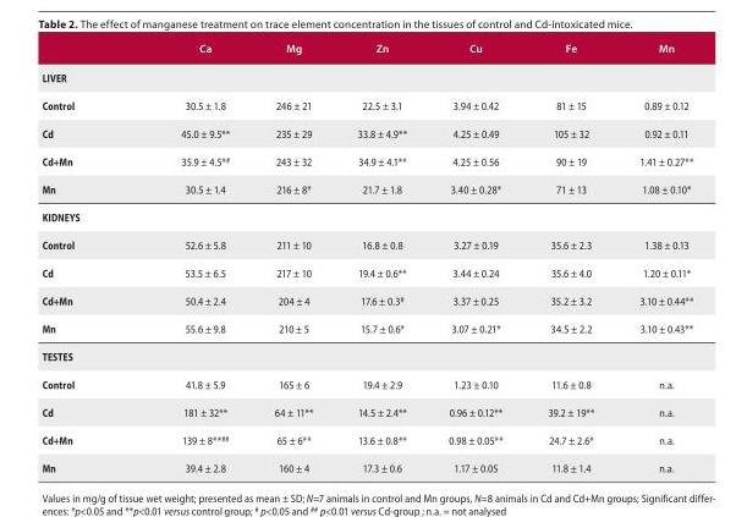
<table><thead><tr><td></td><td>Ca</td><td>Mg</td><td>Zn</td><td>Cu</td><td>Fe</td><td>Mn</td></tr></thead><tbody><tr><td colspan="7">LIVER</td></tr><tr><td>Control</td><td>30.5 ± 1.8</td><td>246 ± 21</td><td>22.5 ± 3.1</td><td>3.94 ± 0.42</td><td>81 ± 15</td><td>0.89 ± 0.12</td></tr><tr><td>Cd</td><td>45.0 ± 9.5**</td><td>235 ± 29</td><td>33.8 ± 4.9**</td><td>4.25 ± 0.49</td><td>105 ± 32</td><td>0.92 ± 0.11</td></tr><tr><td>Cd+Mn</td><td>35.9 ± 4.5<sup>*#</sup></td><td>243 ± 32</td><td>34.9 ± 4.1**</td><td>4.25 ± 0.56</td><td>90 ± 19</td><td>1.41 ± 0.27**</td></tr><tr><td>Mn</td><td>30.5 ± 1.4</td><td>216 ± 8*</td><td>21.7 ± 1.8</td><td>3.40 ± 0.28*</td><td>71 ± 13</td><td>1.08 ± 0.10*</td></tr><tr><td colspan="7">KIDNEYS</td></tr><tr><td>Control</td><td>52.6 ± 5.8</td><td>211 ± 10</td><td>16.8 ± 0.8</td><td>3.27 ± 0.19</td><td>35.6 ± 2.3</td><td>1.38 ± 0.13</td></tr><tr><td>Cd</td><td>53.5 ± 6.5</td><td>217 ± 10</td><td>19.4 ± 0.6**</td><td>3.44 ± 0.24</td><td>35.6 ± 4.0</td><td>1.20 ± 0.11*</td></tr><tr><td>Cd+Mn</td><td>50.4 ± 2.4</td><td>204 ± 4</td><td>17.6 ± 0.3<sup>#</sup></td><td>3.37 ± 0.25</td><td>35.2 ± 3.2</td><td>3.10 ± 0.44**</td></tr><tr><td>Mn</td><td>55.6 ± 9.8</td><td>210 ± 5</td><td>15.7 ± 0.6*</td><td>3.07 ± 0.21*</td><td>34.5 ± 2.2</td><td>3.10 ± 0.43**</td></tr><tr><td colspan="7">TESTES</td></tr><tr><td>Control</td><td>41.8 ± 5.9</td><td>165 ± 6</td><td>19.4 ± 2.9</td><td>1.23 ± 0.10</td><td>11.6 ± 0.8</td><td>n.a.</td></tr><tr><td>Cd</td><td>181 ± 32**</td><td>64 ± 11**</td><td>14.5 ± 2.4**</td><td>0.96 ± 0.12**</td><td>39.2 ± 19**</td><td>n.a.</td></tr><tr><td>Cd+Mn</td><td>139 ± 8<sup>**##</sup></td><td>65 ± 6**</td><td>13.6 ± 0.8**</td><td>0.98 ± 0.05**</td><td>24.7 ± 2.6*</td><td>n.a.</td></tr><tr><td>Mn</td><td>39.4 ± 2.8</td><td>160 ± 4</td><td>17.3 ± 0.6</td><td>1.17 ± 0.05</td><td>11.8 ± 1.4</td><td>n.a.</td></tr></tbody></table>